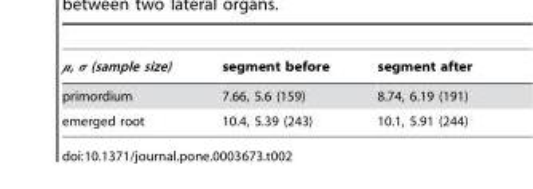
<table><thead><tr><td>μ, σ (sample size)</td><td>segment before</td><td>segment after</td></tr></thead><tbody><tr><td>primordium</td><td>7.66, 5.6 (159)</td><td>8.74, 6.19 (191)</td></tr><tr><td>emerged root</td><td>10.4, 5.39 (243)</td><td>10.1, 5.91 (244)</td></tr></tbody></table>